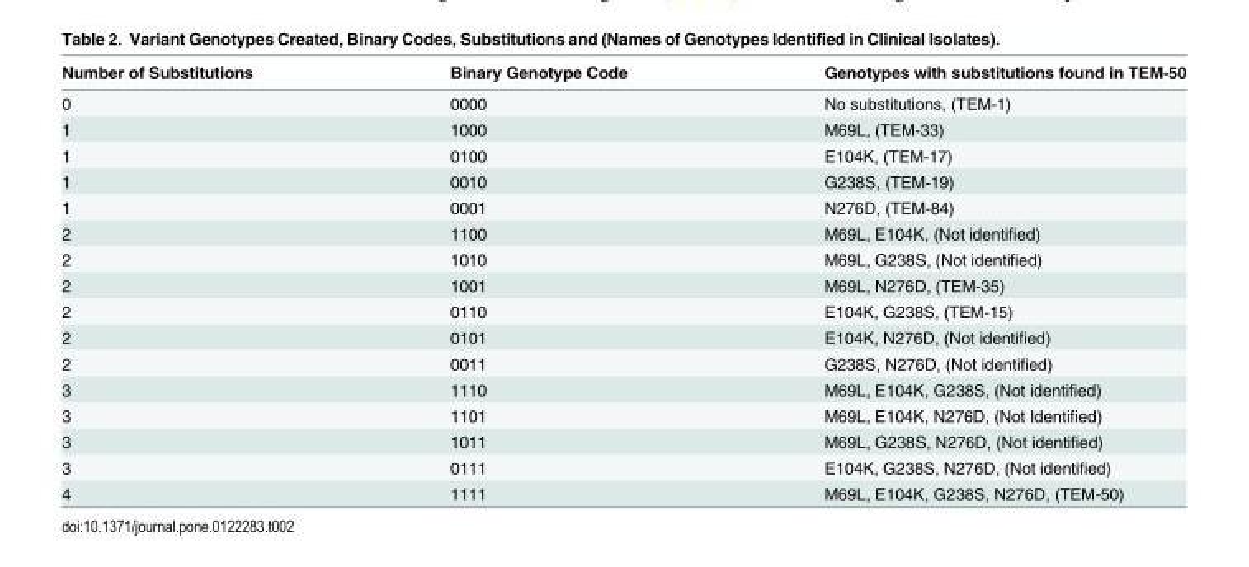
<table><thead><tr><td>Number of Substitutions</td><td>Binary Genotype Code</td><td>Genotypes with substitutions found in TEM-50</td></tr></thead><tbody><tr><td>0</td><td>0000</td><td>No substitutions, (TEM-1)</td></tr><tr><td>1</td><td>1000</td><td>M69L, (TEM-33)</td></tr><tr><td>1</td><td>0100</td><td>E104K, (TEM-17)</td></tr><tr><td>1</td><td>0010</td><td>G238S, (TEM-19)</td></tr><tr><td>1</td><td>0001</td><td>N276D, (TEM-84)</td></tr><tr><td>2</td><td>1100</td><td>M69L, E104K, (Not identified)</td></tr><tr><td>2</td><td>1010</td><td>M69L, G238S, (Not identified)</td></tr><tr><td>2</td><td>1001</td><td>M69L, N276D, (TEM-35)</td></tr><tr><td>2</td><td>0110</td><td>E104K, G238S, (TEM-15)</td></tr><tr><td>2</td><td>0101</td><td>E104K, N276D, (Not identified)</td></tr><tr><td>2</td><td>0011</td><td>G238S, N276D, (Not identified)</td></tr><tr><td>3</td><td>1110</td><td>M69L, E104K, G238S, (Not identified)</td></tr><tr><td>3</td><td>1101</td><td>M69L, E104K, N276D, (Not Identified)</td></tr><tr><td>3</td><td>1011</td><td>M69L, G238S, N276D, (Not identified)</td></tr><tr><td>3</td><td>0111</td><td>E104K, G238S, N276D, (Not identified)</td></tr><tr><td>4</td><td>1111</td><td>M69L, E104K, G238S, N276D, (TEM-50)</td></tr></tbody></table>